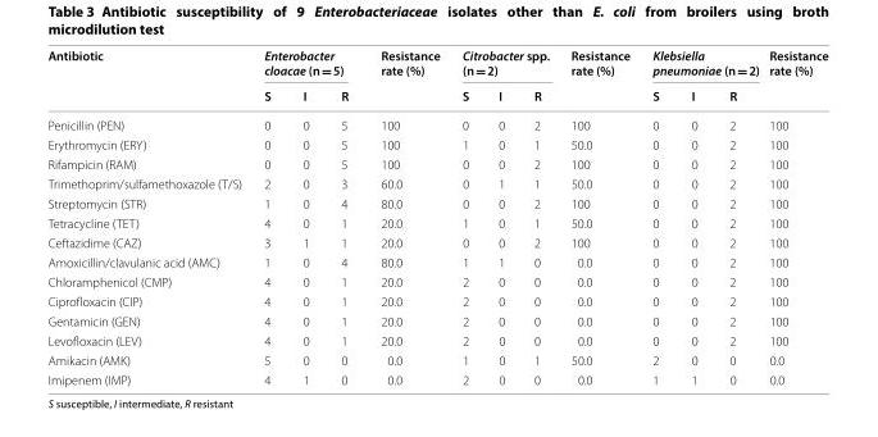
<table><thead><tr><td rowspan="2">Antibiotic</td><td colspan="3">Enterobacter cloacae (n = 5)</td><td rowspan="2">Resistance rate (%)</td><td colspan="3">Citrobacter spp. (n = 2)</td><td rowspan="2">Resistance rate (%)</td><td colspan="3">Klebsiella pneumoniae (n = 2)</td><td rowspan="2">Resistance rate (%)</td></tr><tr><td>S</td><td>I</td><td>R</td><td>S</td><td>I</td><td>R</td><td>S</td><td>I</td><td>R</td></tr></thead><tbody><tr><td>Penicillin (PEN)</td><td>0</td><td>0</td><td>5</td><td>100</td><td>0</td><td>0</td><td>2</td><td>100</td><td>0</td><td>0</td><td>2</td><td>100</td></tr><tr><td>Erythromycin (ERY)</td><td>0</td><td>0</td><td>5</td><td>100</td><td>1</td><td>0</td><td>1</td><td>50.0</td><td>0</td><td>0</td><td>2</td><td>100</td></tr><tr><td>Rifampicin (RAM)</td><td>0</td><td>0</td><td>5</td><td>100</td><td>0</td><td>0</td><td>2</td><td>100</td><td>0</td><td>0</td><td>2</td><td>100</td></tr><tr><td>Trimethoprim/sulfamethoxazole (T/S)</td><td>2</td><td>0</td><td>3</td><td>60.0</td><td>0</td><td>1</td><td>1</td><td>50.0</td><td>0</td><td>0</td><td>2</td><td>100</td></tr><tr><td>Streptomycin (STR)</td><td>1</td><td>0</td><td>4</td><td>80.0</td><td>0</td><td>0</td><td>2</td><td>100</td><td>0</td><td>0</td><td>2</td><td>100</td></tr><tr><td>Tetracycline (TET)</td><td>4</td><td>0</td><td>1</td><td>20.0</td><td>1</td><td>0</td><td>1</td><td>50.0</td><td>0</td><td>0</td><td>2</td><td>100</td></tr><tr><td>Ceftazidime (CAZ)</td><td>3</td><td>1</td><td>1</td><td>20.0</td><td>0</td><td>0</td><td>2</td><td>100</td><td>0</td><td>0</td><td>2</td><td>100</td></tr><tr><td>Amoxicillin/clavulanic acid (AMC)</td><td>1</td><td>0</td><td>4</td><td>80.0</td><td>1</td><td>1</td><td>0</td><td>0.0</td><td>0</td><td>0</td><td>2</td><td>100</td></tr><tr><td>Chloramphenicol (CMP)</td><td>4</td><td>0</td><td>1</td><td>20.0</td><td>2</td><td>0</td><td>0</td><td>0.0</td><td>0</td><td>0</td><td>2</td><td>100</td></tr><tr><td>Ciprofloxacin (CIP)</td><td>4</td><td>0</td><td>1</td><td>20.0</td><td>2</td><td>0</td><td>0</td><td>0.0</td><td>0</td><td>0</td><td>2</td><td>100</td></tr><tr><td>Gentamicin (GEN)</td><td>4</td><td>0</td><td>1</td><td>20.0</td><td>2</td><td>0</td><td>0</td><td>0.0</td><td>0</td><td>0</td><td>2</td><td>100</td></tr><tr><td>Levofloxacin (LEV)</td><td>4</td><td>0</td><td>1</td><td>20.0</td><td>2</td><td>0</td><td>0</td><td>0.0</td><td>0</td><td>0</td><td>2</td><td>100</td></tr><tr><td>Amikacin (AMK)</td><td>5</td><td>0</td><td>0</td><td>0.0</td><td>1</td><td>0</td><td>1</td><td>50.0</td><td>2</td><td>0</td><td>0</td><td>0.0</td></tr><tr><td>Imipenem (IMP)</td><td>4</td><td>1</td><td>0</td><td>0.0</td><td>2</td><td>0</td><td>0</td><td>0.0</td><td>1</td><td>1</td><td>0</td><td>0.0</td></tr></tbody></table>